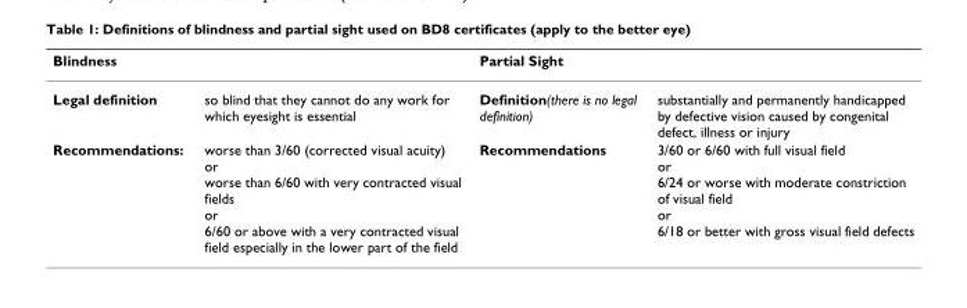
<table><thead><tr><td>Blindness</td><td></td><td>Partial Sight</td><td></td></tr></thead><tbody><tr><td>Legal definition</td><td>so blind that they cannot do any work for which eyesight is essential</td><td>Definition(there is no legal definition)</td><td>substantially and permanently handicapped by defective vision caused by congenital defect, illness or injury</td></tr><tr><td>Recommendations:</td><td>worse than 3/60 (corrected visual acuity) or worse than 6/60 with very contracted visual fields or 6/60 or above with a very contracted visual field especially in the lower part of the field</td><td>Recommendations</td><td>3/60 or 6/60 with full visual field or 6/24 or worse with moderate constriction of visual field or 6/18 or better with gross visual field defects</td></tr></tbody></table>